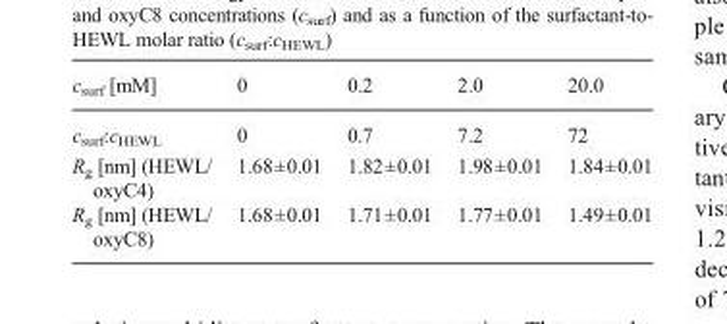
<table><thead><tr><td>c<sub>surf</sub> [mM]</td><td>0</td><td>0.2</td><td>2.0</td><td>20.0</td></tr></thead><tbody><tr><td>c<sub>surf</sub>:c<sub>HEWL</sub></td><td>0</td><td>0.7</td><td>7.2</td><td>72</td></tr><tr><td>R<sub>g</sub> [nm] (HEWL/ oxyC4)</td><td>1.68±0.01</td><td>1.82±0.01</td><td>1.98±0.01</td><td>1.84±0.01</td></tr><tr><td>R<sub>g</sub> [nm] (HEWL/ oxyC8)</td><td>1.68±0.01</td><td>1.71±0.01</td><td>1.77±0.01</td><td>1.49±0.01</td></tr></tbody></table>